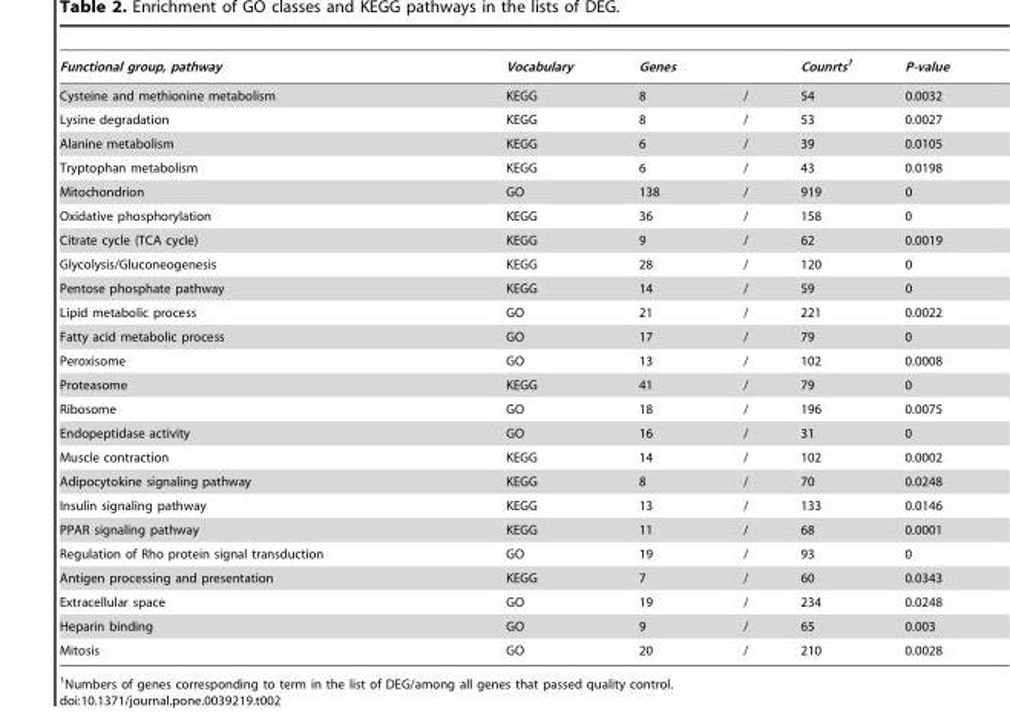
<table><thead><tr><td>Functional group, pathway</td><td>Vocabulary</td><td>Genes</td><td></td><td>Counrts1</td><td>P-value</td></tr></thead><tbody><tr><td>Cysteine and methionine metabolism</td><td>KEGG</td><td>8</td><td>/</td><td>54</td><td>0.0032</td></tr><tr><td>Lysine degradation</td><td>KEGG</td><td>8</td><td>/</td><td>53</td><td>0.0027</td></tr><tr><td>Alanine metabolism</td><td>KEGG</td><td>6</td><td>/</td><td>39</td><td>0.0105</td></tr><tr><td>Tryptophan metabolism</td><td>KEGG</td><td>6</td><td>/</td><td>43</td><td>0.0198</td></tr><tr><td>Mitochondrion</td><td>GO</td><td>138</td><td>/</td><td>919</td><td>0</td></tr><tr><td>Oxidative phosphorylation</td><td>KEGG</td><td>36</td><td>/</td><td>158</td><td>0</td></tr><tr><td>Citrate cycle (TCA cycle)</td><td>KEGG</td><td>9</td><td>/</td><td>62</td><td>0.0019</td></tr><tr><td>Glycolysis/Gluconeogenesis</td><td>KEGG</td><td>28</td><td>/</td><td>120</td><td>0</td></tr><tr><td>Pentose phosphate pathway</td><td>KEGG</td><td>14</td><td>/</td><td>59</td><td>0</td></tr><tr><td>Lipid metabolic process</td><td>GO</td><td>21</td><td>/</td><td>221</td><td>0.0022</td></tr><tr><td>Fatty acid metabolic process</td><td>GO</td><td>17</td><td>/</td><td>79</td><td>0</td></tr><tr><td>Peroxisome</td><td>GO</td><td>13</td><td>/</td><td>102</td><td>0.0008</td></tr><tr><td>Proteasome</td><td>KEGG</td><td>41</td><td>/</td><td>79</td><td>0</td></tr><tr><td>Ribosome</td><td>GO</td><td>18</td><td>/</td><td>196</td><td>0.0075</td></tr><tr><td>Endopeptidase activity</td><td>GO</td><td>16</td><td>/</td><td>31</td><td>0</td></tr><tr><td>Muscle contraction</td><td>KEGG</td><td>14</td><td>/</td><td>102</td><td>0.0002</td></tr><tr><td>Adipocytokine signaling pathway</td><td>KEGG</td><td>8</td><td>/</td><td>70</td><td>0.0248</td></tr><tr><td>Insulin signaling pathway</td><td>KEGG</td><td>13</td><td>/</td><td>133</td><td>0.0146</td></tr><tr><td>PPAR signaling pathway</td><td>KEGG</td><td>11</td><td>/</td><td>68</td><td>0.0001</td></tr><tr><td>Regulation of Rho protein signal transduction</td><td>GO</td><td>19</td><td>/</td><td>93</td><td>0</td></tr><tr><td>Antigen processing and presentation</td><td>KEGG</td><td>7</td><td>/</td><td>60</td><td>0.0343</td></tr><tr><td>Extracellular space</td><td>GO</td><td>19</td><td>/</td><td>234</td><td>0.0248</td></tr><tr><td>Heparin binding</td><td>GO</td><td>9</td><td>/</td><td>65</td><td>0.003</td></tr><tr><td>Mitosis</td><td>GO</td><td>20</td><td>/</td><td>210</td><td>0.0028</td></tr></tbody></table>